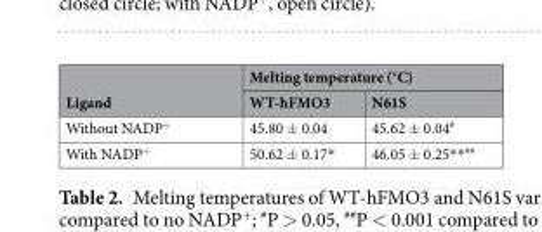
<table><thead><tr><td rowspan="2">Ligand</td><td colspan="2">Melting temperature (°C)</td></tr><tr><td>WT-hFMO3</td><td>N61S</td></tr></thead><tbody><tr><td>Without NADP<sup>+</sup></td><td>45.80 ± 0.04</td><td>45.62 ± 0.04<sup>#</sup></td></tr><tr><td>With NADP<sup>+</sup></td><td>50.62 ± 0.17*</td><td>46.05 ± 0.25**<sup>##</sup></td></tr></tbody></table>